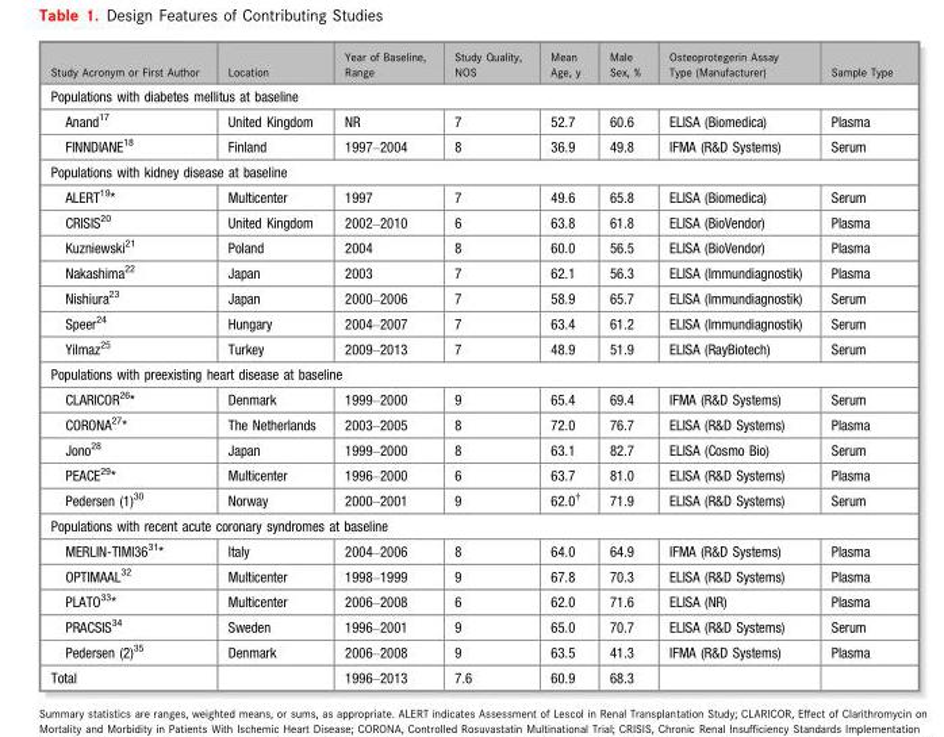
<table><thead><tr><td>Study Acronym or First Author</td><td>Location</td><td>Year of Baseline, Range</td><td>Study Quality, NOS</td><td>Mean Age, y</td><td>Male Sex, %</td><td>Osteoprotegerin Assay Type (Manufacturer)</td><td>Sample Type</td></tr></thead><tbody><tr><td colspan="8">Populations with diabetes mellitus at baseline</td></tr><tr><td>Anand<sup>17</sup></td><td>United Kingdom</td><td>NR</td><td>7</td><td>52.7</td><td>60.6</td><td>ELISA (Biomedica)</td><td>Plasma</td></tr><tr><td>FINNDIANE<sup>18</sup></td><td>Finland</td><td>1997–2004</td><td>8</td><td>36.9</td><td>49.8</td><td>IFMA (R&amp;D Systems)</td><td>Serum</td></tr><tr><td colspan="8">Populations with kidney disease at baseline</td></tr><tr><td>ALERT19*</td><td>Multicenter</td><td>1997</td><td>7</td><td>49.6</td><td>65.8</td><td>ELISA (Biomedica)</td><td>Serum</td></tr><tr><td>CRISIS<sup>20</sup></td><td>United Kingdom</td><td>2002–2010</td><td>6</td><td>63.8</td><td>61.8</td><td>ELISA (BioVendor)</td><td>Plasma</td></tr><tr><td>Kuzniewski<sup>21</sup></td><td>Poland</td><td>2004</td><td>8</td><td>60.0</td><td>56.5</td><td>ELISA (BioVendor)</td><td>Plasma</td></tr><tr><td>Nakashima<sup>22</sup></td><td>Japan</td><td>2003</td><td>7</td><td>62.1</td><td>56.3</td><td>ELISA (Immundiagnostik)</td><td>Plasma</td></tr><tr><td>Nishiura<sup>23</sup></td><td>Japan</td><td>2000–2006</td><td>7</td><td>58.9</td><td>65.7</td><td>ELISA (Immundiagnostik)</td><td>Serum</td></tr><tr><td>Speer<sup>24</sup></td><td>Hungary</td><td>2004–2007</td><td>7</td><td>63.4</td><td>61.2</td><td>ELISA (Immundiagnostik)</td><td>Serum</td></tr><tr><td>Yilmaz<sup>25</sup></td><td>Turkey</td><td>2009–2013</td><td>7</td><td>48.9</td><td>51.9</td><td>ELISA (RayBiotech)</td><td>Serum</td></tr><tr><td colspan="8">Populations with preexisting heart disease at baseline</td></tr><tr><td>CLARICOR26*</td><td>Denmark</td><td>1999–2000</td><td>9</td><td>65.4</td><td>69.4</td><td>IFMA (R&amp;D Systems)</td><td>Serum</td></tr><tr><td>CORONA27*</td><td>The Netherlands</td><td>2003–2005</td><td>8</td><td>72.0</td><td>76.7</td><td>ELISA (R&amp;D Systems)</td><td>Plasma</td></tr><tr><td>Jono<sup>28</sup></td><td>Japan</td><td>1999–2000</td><td>8</td><td>63.1</td><td>82.7</td><td>ELISA (Cosmo Bio)</td><td>Serum</td></tr><tr><td>PEACE29*</td><td>Multicenter</td><td>1996–2000</td><td>6</td><td>63.7</td><td>81.0</td><td>ELISA (R&amp;D Systems)</td><td>Plasma</td></tr><tr><td>Pedersen (1)<sup>30</sup></td><td>Norway</td><td>2000–2001</td><td>9</td><td>62.0†</td><td>71.9</td><td>ELISA (R&amp;D Systems)</td><td>Serum</td></tr><tr><td colspan="8">Populations with recent acute coronary syndromes at baseline</td></tr><tr><td>MERLIN-TIMI3631*</td><td>Italy</td><td>2004–2006</td><td>8</td><td>64.0</td><td>64.9</td><td>IFMA (R&amp;D Systems)</td><td>Plasma</td></tr><tr><td>OPTIMAAL<sup>32</sup></td><td>Multicenter</td><td>1998–1999</td><td>9</td><td>67.8</td><td>70.3</td><td>ELISA (R&amp;D Systems)</td><td>Plasma</td></tr><tr><td>PLATO33*</td><td>Multicenter</td><td>2006–2008</td><td>6</td><td>62.0</td><td>71.6</td><td>ELISA (NR)</td><td>Plasma</td></tr><tr><td>PRACSIS<sup>34</sup></td><td>Sweden</td><td>1996–2001</td><td>9</td><td>65.0</td><td>70.7</td><td>ELISA (R&amp;D Systems)</td><td>Serum</td></tr><tr><td>Pedersen (2)<sup>35</sup></td><td>Denmark</td><td>2006–2008</td><td>9</td><td>63.5</td><td>41.3</td><td>IFMA (R&amp;D Systems)</td><td>Plasma</td></tr><tr><td>Total</td><td></td><td>1996–2013</td><td>7.6</td><td>60.9</td><td>68.3</td><td></td><td></td></tr></tbody></table>